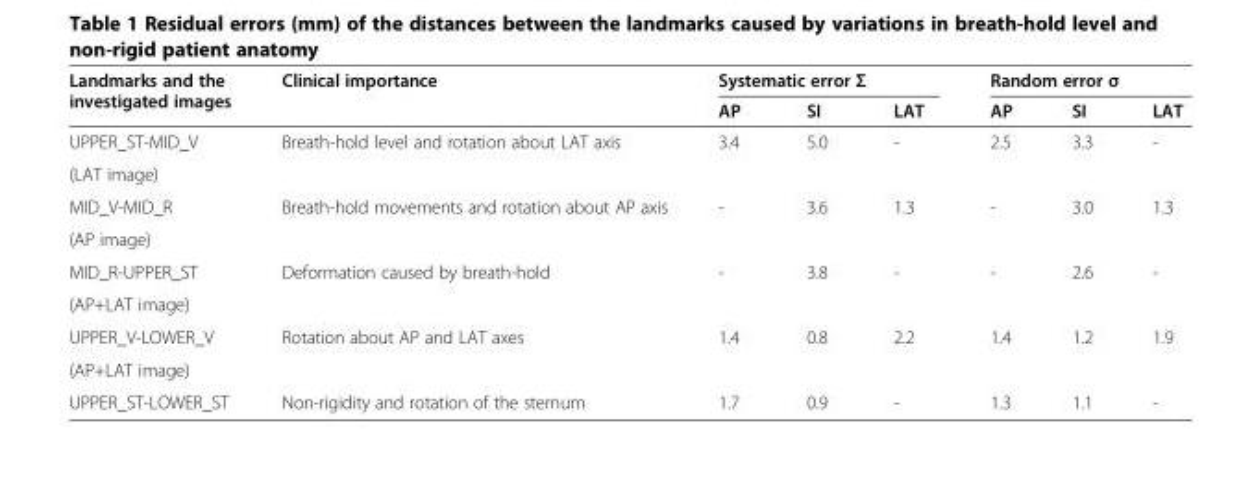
<table><thead><tr><td rowspan="2">Landmarks and the investigated images</td><td rowspan="2">Clinical importance</td><td colspan="3">Systematic error Σ</td><td colspan="3">Random error σ</td></tr><tr><td>AP</td><td>SI</td><td>LAT</td><td>AP</td><td>SI</td><td>LAT</td></tr></thead><tbody><tr><td>UPPER_ST-MID_V</td><td rowspan="2">Breath-hold level and rotation about LAT axis</td><td rowspan="2">3.4</td><td rowspan="2">5.0</td><td rowspan="2">-</td><td rowspan="2">2.5</td><td rowspan="2">3.3</td><td rowspan="2">-</td></tr><tr><td>(LAT image)</td></tr><tr><td>MID_V-MID_R</td><td rowspan="2">Breath-hold movements and rotation about AP axis</td><td rowspan="2">-</td><td rowspan="2">3.6</td><td rowspan="2">1.3</td><td rowspan="2">-</td><td rowspan="2">3.0</td><td rowspan="2">1.3</td></tr><tr><td>(AP image)</td></tr><tr><td>MID_R-UPPER_ST</td><td rowspan="2">Deformation caused by breath-hold</td><td rowspan="2">-</td><td rowspan="2">3.8</td><td rowspan="2">-</td><td rowspan="2">-</td><td rowspan="2">2.6</td><td rowspan="2">-</td></tr><tr><td>(AP+LAT image)</td></tr><tr><td>UPPER_V-LOWER_V</td><td rowspan="2">Rotation about AP and LAT axes</td><td rowspan="2">1.4</td><td rowspan="2">0.8</td><td rowspan="2">2.2</td><td rowspan="2">1.4</td><td rowspan="2">1.2</td><td rowspan="2">1.9</td></tr><tr><td>(AP+LAT image)</td></tr><tr><td>UPPER_ST-LOWER_ST</td><td>Non-rigidity and rotation of the sternum</td><td>1.7</td><td>0.9</td><td>-</td><td>1.3</td><td>1.1</td><td>-</td></tr></tbody></table>